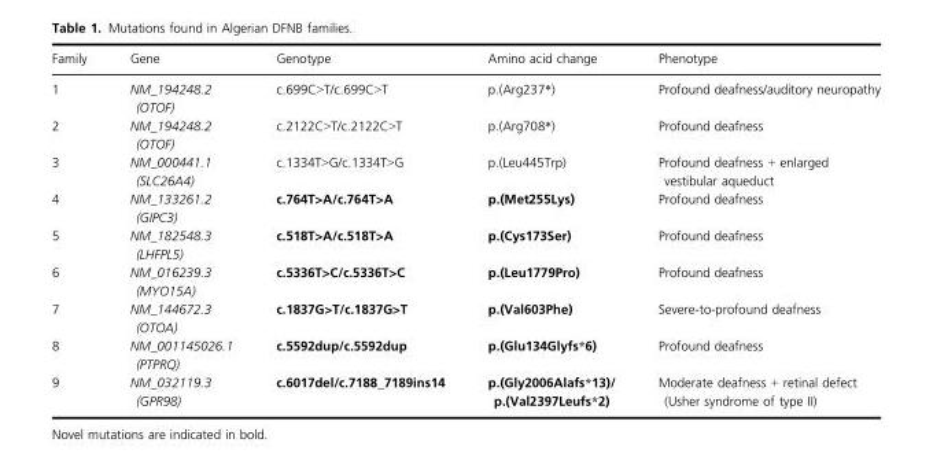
<table><thead><tr><td>Family</td><td>Gene</td><td>Genotype</td><td>Amino acid change</td><td>Phenotype</td></tr></thead><tbody><tr><td>1</td><td>NM_194248.2 (OTOF)</td><td>c.699C&gt;T/c.699C&gt;T</td><td>p.(Arg237*)</td><td>Profound deafness/auditory neuropathy</td></tr><tr><td>2</td><td>NM_194248.2 (OTOF)</td><td>c.2122C&gt;T/c.2122C&gt;T</td><td>p.(Arg708*)</td><td>Profound deafness</td></tr><tr><td>3</td><td>NM_000441.1 (SLC26A4)</td><td>c.1334T&gt;G/c.1334T&gt;G</td><td>p.(Leu445Trp)</td><td>Profound deafness + enlarged vestibular aqueduct</td></tr><tr><td>4</td><td>NM_133261.2 (GIPC3)</td><td>c.764T&gt;A/c.764T&gt;A</td><td>p.(Met255Lys)</td><td>Profound deafness</td></tr><tr><td>5</td><td>NM_182548.3 (LHFPL5)</td><td>c.518T&gt;A/c.518T&gt;A</td><td>p.(Cys173Ser)</td><td>Profound deafness</td></tr><tr><td>6</td><td>NM_016239.3 (MYO15A)</td><td>c.5336T&gt;C/c.5336T&gt;C</td><td>p.(Leu1779Pro)</td><td>Profound deafness</td></tr><tr><td>7</td><td>NM_144672.3 (OTOA)</td><td>c.1837G&gt;T/c.1837G&gt;T</td><td>p.(Val603Phe)</td><td>Severe-to-profound deafness</td></tr><tr><td>8</td><td>NM_001145026.1 (PTPRQ)</td><td>c.5592dup/c.5592dup</td><td>p.(Glu134Glyfs*6)</td><td>Profound deafness</td></tr><tr><td>9</td><td>NM_032119.3 (GPR98)</td><td>c.6017del/c.7188_7189ins14</td><td>p.(Gly2006Alafs*13)/ p.(Val2397Leufs*2)</td><td>Moderate deafness + retinal defect (Usher syndrome of type II)</td></tr></tbody></table>